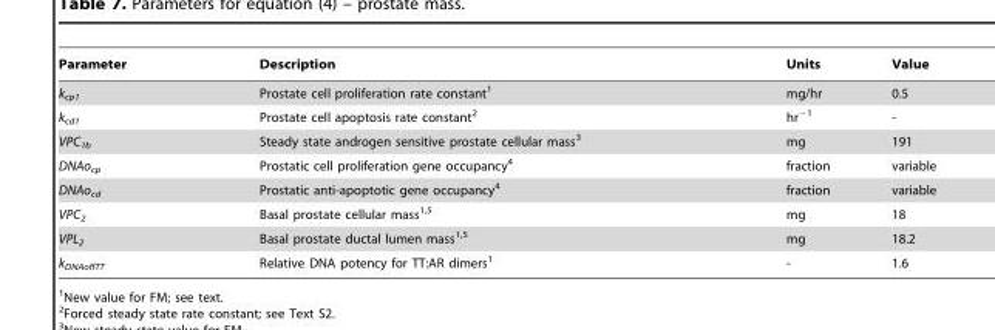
<table><thead><tr><td>Parameter</td><td>Description</td><td>Units</td><td>Value</td></tr></thead><tbody><tr><td>k<sub>cp1</sub></td><td>Prostate cell proliferation rate constant<sup>1</sup></td><td>mg/hr</td><td>0.5</td></tr><tr><td>k<sub>cd1</sub></td><td>Prostate cell apoptosis rate constant<sup>2</sup></td><td>hr<sup>−1</sup></td><td>-</td></tr><tr><td>VPC<sub>1b</sub></td><td>Steady state androgen sensitive prostate cellular mass<sup>3</sup></td><td>mg</td><td>191</td></tr><tr><td>DNAo<sub>cp</sub></td><td>Prostatic cell proliferation gene occupancy<sup>4</sup></td><td>fraction</td><td>variable</td></tr><tr><td>DNAo<sub>cd</sub></td><td>Prostatic anti-apoptotic gene occupancy<sup>4</sup></td><td>fraction</td><td>variable</td></tr><tr><td>VPC<sub>2</sub></td><td>Basal prostate cellular mass<sup>1,5</sup></td><td>mg</td><td>18</td></tr><tr><td>VPL<sub>2</sub></td><td>Basal prostate ductal lumen mass<sup>1,5</sup></td><td>mg</td><td>18.2</td></tr><tr><td>k<sub>DNAoffTT</sub></td><td>Relative DNA potency for TT:AR dimers<sup>1</sup></td><td>-</td><td>1.6</td></tr></tbody></table>